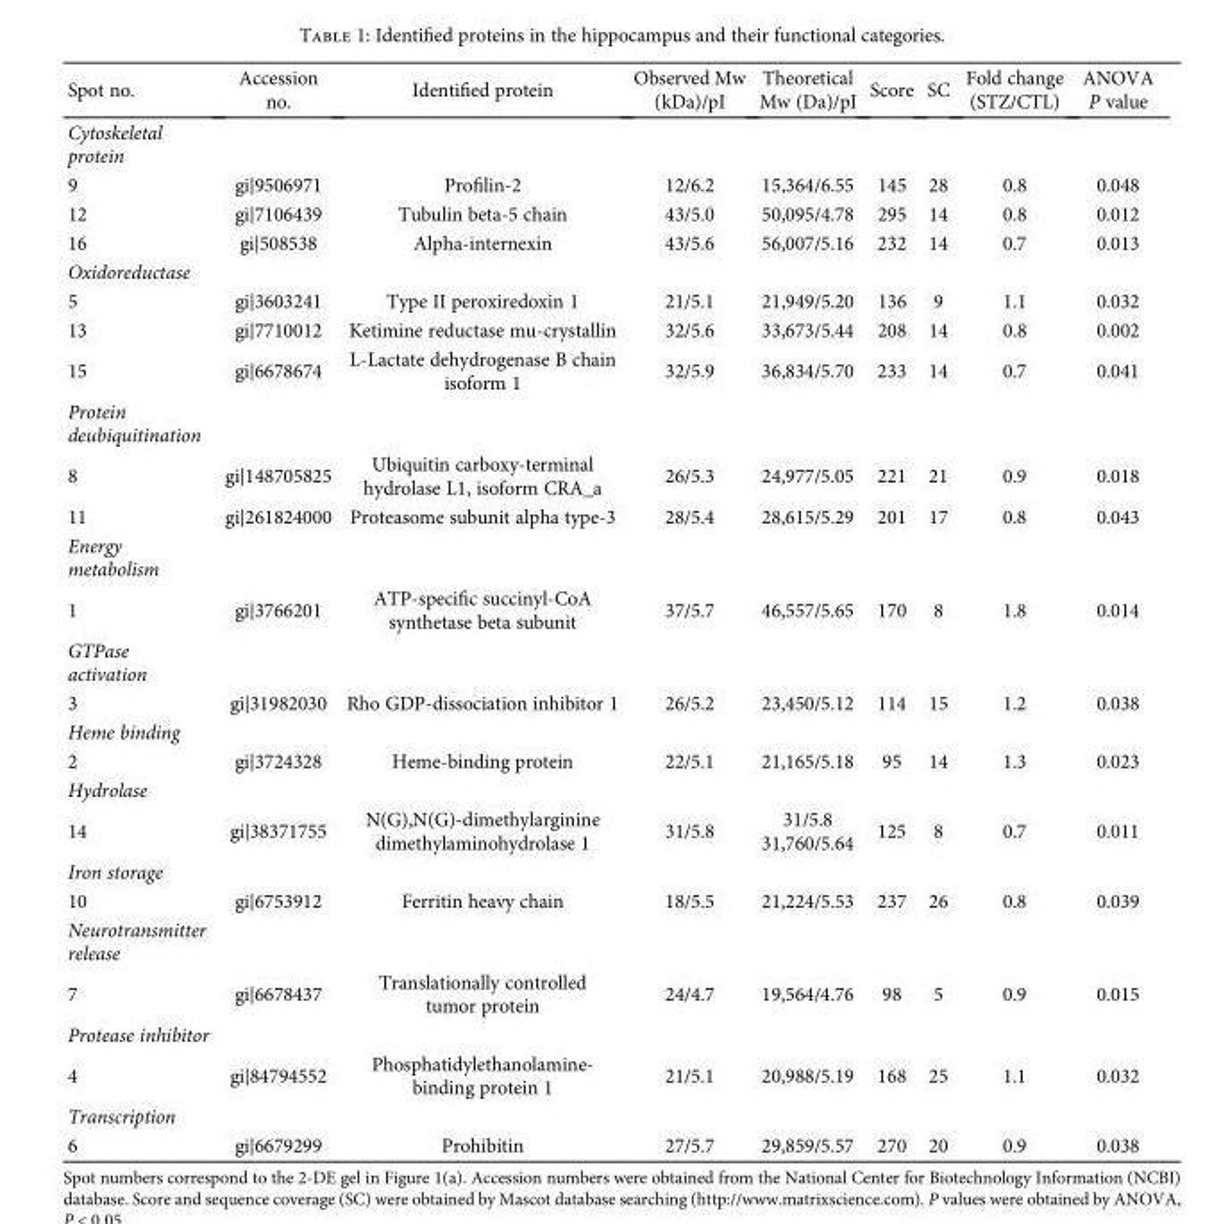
<table><thead><tr><td>Spot no.</td><td>Accession no.</td><td>Identified protein</td><td>Observed Mw (kDa)/pI</td><td>Theoretical Mw (Da)/pI</td><td>Score</td><td>SC</td><td>Fold change (STZ/CTL)</td><td>ANOVA P value</td></tr></thead><tbody><tr><td colspan="9">Cytoskeletal protein</td></tr><tr><td>9</td><td>gi|9506971</td><td>Profilin-2</td><td>12/6.2</td><td>15,364/6.55</td><td>145</td><td>28</td><td>0.8</td><td>0.048</td></tr><tr><td>12</td><td>gi|7106439</td><td>Tubulin beta-5 chain</td><td>43/5.0</td><td>50,095/4.78</td><td>295</td><td>14</td><td>0.8</td><td>0.012</td></tr><tr><td>16</td><td>gi|508538</td><td>Alpha-internexin</td><td>43/5.6</td><td>56,007/5.16</td><td>232</td><td>14</td><td>0.7</td><td>0.013</td></tr><tr><td colspan="9">Oxidoreductase</td></tr><tr><td>5</td><td>gi|3603241</td><td>Type II peroxiredoxin 1</td><td>21/5.1</td><td>21,949/5.20</td><td>136</td><td>9</td><td>1.1</td><td>0.032</td></tr><tr><td>13</td><td>gi|7710012</td><td>Ketimine reductase mu-crystallin</td><td>32/5.6</td><td>33,673/5.44</td><td>208</td><td>14</td><td>0.8</td><td>0.002</td></tr><tr><td>15</td><td>gi|6678674</td><td>L-Lactate dehydrogenase B chain isoform 1</td><td>32/5.9</td><td>36,834/5.70</td><td>233</td><td>14</td><td>0.7</td><td>0.041</td></tr><tr><td colspan="9">Protein deubiquitination</td></tr><tr><td>8</td><td>gi|148705825</td><td>Ubiquitin carboxy-terminal hydrolase L1, isoform CRA_a</td><td>26/5.3</td><td>24,977/5.05</td><td>221</td><td>21</td><td>0.9</td><td>0.018</td></tr><tr><td>11</td><td>gi|261824000</td><td>Proteasome subunit alpha type-3</td><td>28/5.4</td><td>28,615/5.29</td><td>201</td><td>17</td><td>0.8</td><td>0.043</td></tr><tr><td colspan="9">Energy metabolism</td></tr><tr><td>1</td><td>gi|3766201</td><td>ATP-specific succinyl-CoA synthetase beta subunit</td><td>37/5.7</td><td>46,557/5.65</td><td>170</td><td>8</td><td>1.8</td><td>0.014</td></tr><tr><td colspan="9">GTPase activation</td></tr><tr><td>3</td><td>gi|31982030</td><td>Rho GDP-dissociation inhibitor 1</td><td>26/5.2</td><td>23,450/5.12</td><td>114</td><td>15</td><td>1.2</td><td>0.038</td></tr><tr><td colspan="9">Heme binding</td></tr><tr><td>2</td><td>gi|3724328</td><td>Heme-binding protein</td><td>22/5.1</td><td>21,165/5.18</td><td>95</td><td>14</td><td>1.3</td><td>0.023</td></tr><tr><td colspan="9">Hydrolase</td></tr><tr><td>14</td><td>gi|38371755</td><td>N(G),N(G)-dimethylarginine dimethylaminohydrolase 1</td><td>31/5.8</td><td>31/5.8 31,760/5.64</td><td>125</td><td>8</td><td>0.7</td><td>0.011</td></tr><tr><td colspan="9">Iron storage</td></tr><tr><td>10</td><td>gi|6753912</td><td>Ferritin heavy chain</td><td>18/5.5</td><td>21,224/5.53</td><td>237</td><td>26</td><td>0.8</td><td>0.039</td></tr><tr><td colspan="9">Neurotransmitter release</td></tr><tr><td>7</td><td>gi|6678437</td><td>Translationally controlled tumor protein</td><td>24/4.7</td><td>19,564/4.76</td><td>98</td><td>5</td><td>0.9</td><td>0.015</td></tr><tr><td colspan="9">Protease inhibitor</td></tr><tr><td>4</td><td>gi|84794552</td><td>Phosphatidylethanolamine- binding protein 1</td><td>21/5.1</td><td>20,988/5.19</td><td>168</td><td>25</td><td>1.1</td><td>0.032</td></tr><tr><td colspan="9">Transcription</td></tr><tr><td>6</td><td>gi|6679299</td><td>Prohibitin</td><td>27/5.7</td><td>29,859/5.57</td><td>270</td><td>20</td><td>0.9</td><td>0.038</td></tr></tbody></table>